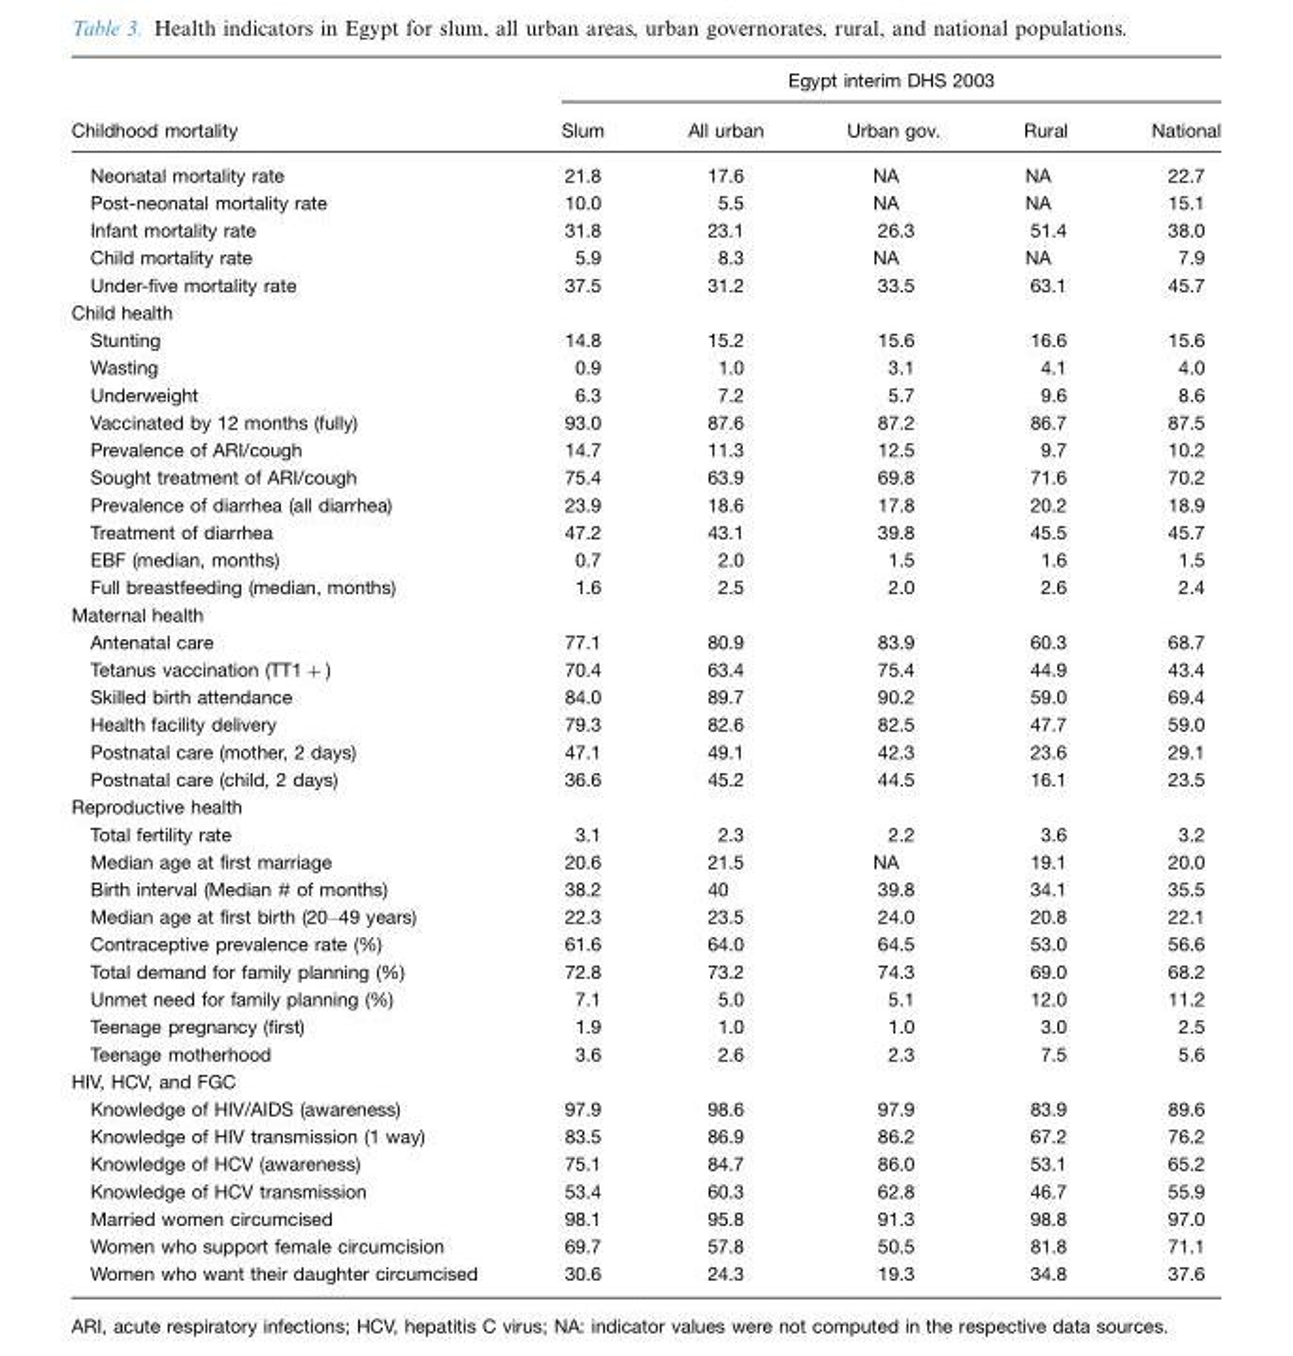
<table><thead><tr><td rowspan="2">Childhood mortality</td><td colspan="5">Egypt interim DHS 2003</td></tr><tr><td>Slum</td><td>All urban</td><td>Urban gov.</td><td>Rural</td><td>National</td></tr></thead><tbody><tr><td>Neonatal mortality rate</td><td>21.8</td><td>17.6</td><td>NA</td><td>NA</td><td>22.7</td></tr><tr><td>Post-neonatal mortality rate</td><td>10.0</td><td>5.5</td><td>NA</td><td>NA</td><td>15.1</td></tr><tr><td>Infant mortality rate</td><td>31.8</td><td>23.1</td><td>26.3</td><td>51.4</td><td>38.0</td></tr><tr><td>Child mortality rate</td><td>5.9</td><td>8.3</td><td>NA</td><td>NA</td><td>7.9</td></tr><tr><td>Under-five mortality rate</td><td>37.5</td><td>31.2</td><td>33.5</td><td>63.1</td><td>45.7</td></tr><tr><td colspan="6">Child health</td></tr><tr><td>Stunting</td><td>14.8</td><td>15.2</td><td>15.6</td><td>16.6</td><td>15.6</td></tr><tr><td>Wasting</td><td>0.9</td><td>1.0</td><td>3.1</td><td>4.1</td><td>4.0</td></tr><tr><td>Underweight</td><td>6.3</td><td>7.2</td><td>5.7</td><td>9.6</td><td>8.6</td></tr><tr><td>Vaccinated by 12 months (fully)</td><td>93.0</td><td>87.6</td><td>87.2</td><td>86.7</td><td>87.5</td></tr><tr><td>Prevalence of ARI/cough</td><td>14.7</td><td>11.3</td><td>12.5</td><td>9.7</td><td>10.2</td></tr><tr><td>Sought treatment of ARI/cough</td><td>75.4</td><td>63.9</td><td>69.8</td><td>71.6</td><td>70.2</td></tr><tr><td>Prevalence of diarrhea (all diarrhea)</td><td>23.9</td><td>18.6</td><td>17.8</td><td>20.2</td><td>18.9</td></tr><tr><td>Treatment of diarrhea</td><td>47.2</td><td>43.1</td><td>39.8</td><td>45.5</td><td>45.7</td></tr><tr><td>EBF (median, months)</td><td>0.7</td><td>2.0</td><td>1.5</td><td>1.6</td><td>1.5</td></tr><tr><td>Full breastfeeding (median, months)</td><td>1.6</td><td>2.5</td><td>2.0</td><td>2.6</td><td>2.4</td></tr><tr><td colspan="6">Maternal health</td></tr><tr><td>Antenatal care</td><td>77.1</td><td>80.9</td><td>83.9</td><td>60.3</td><td>68.7</td></tr><tr><td>Tetanus vaccination (TT1+)</td><td>70.4</td><td>63.4</td><td>75.4</td><td>44.9</td><td>43.4</td></tr><tr><td>Skilled birth attendance</td><td>84.0</td><td>89.7</td><td>90.2</td><td>59.0</td><td>69.4</td></tr><tr><td>Health facility delivery</td><td>79.3</td><td>82.6</td><td>82.5</td><td>47.7</td><td>59.0</td></tr><tr><td>Postnatal care (mother, 2 days)</td><td>47.1</td><td>49.1</td><td>42.3</td><td>23.6</td><td>29.1</td></tr><tr><td>Postnatal care (child, 2 days)</td><td>36.6</td><td>45.2</td><td>44.5</td><td>16.1</td><td>23.5</td></tr><tr><td colspan="6">Reproductive health</td></tr><tr><td>Total fertility rate</td><td>3.1</td><td>2.3</td><td>2.2</td><td>3.6</td><td>3.2</td></tr><tr><td>Median age at first marriage</td><td>20.6</td><td>21.5</td><td>NA</td><td>19.1</td><td>20.0</td></tr><tr><td>Birth interval (Median # of months)</td><td>38.2</td><td>40</td><td>39.8</td><td>34.1</td><td>35.5</td></tr><tr><td>Median age at first birth (20–49 years)</td><td>22.3</td><td>23.5</td><td>24.0</td><td>20.8</td><td>22.1</td></tr><tr><td>Contraceptive prevalence rate (%)</td><td>61.6</td><td>64.0</td><td>64.5</td><td>53.0</td><td>56.6</td></tr><tr><td>Total demand for family planning (%)</td><td>72.8</td><td>73.2</td><td>74.3</td><td>69.0</td><td>68.2</td></tr><tr><td>Unmet need for family planning (%)</td><td>7.1</td><td>5.0</td><td>5.1</td><td>12.0</td><td>11.2</td></tr><tr><td>Teenage pregnancy (first)</td><td>1.9</td><td>1.0</td><td>1.0</td><td>3.0</td><td>2.5</td></tr><tr><td>Teenage motherhood</td><td>3.6</td><td>2.6</td><td>2.3</td><td>7.5</td><td>5.6</td></tr><tr><td colspan="6">HIV, HCV, and FGC</td></tr><tr><td>Knowledge of HIV/AIDS (awareness)</td><td>97.9</td><td>98.6</td><td>97.9</td><td>83.9</td><td>89.6</td></tr><tr><td>Knowledge of HIV transmission (1 way)</td><td>83.5</td><td>86.9</td><td>86.2</td><td>67.2</td><td>76.2</td></tr><tr><td>Knowledge of HCV (awareness)</td><td>75.1</td><td>84.7</td><td>86.0</td><td>53.1</td><td>65.2</td></tr><tr><td>Knowledge of HCV transmission</td><td>53.4</td><td>60.3</td><td>62.8</td><td>46.7</td><td>55.9</td></tr><tr><td>Married women circumcised</td><td>98.1</td><td>95.8</td><td>91.3</td><td>98.8</td><td>97.0</td></tr><tr><td>Women who support female circumcision</td><td>69.7</td><td>57.8</td><td>50.5</td><td>81.8</td><td>71.1</td></tr><tr><td>Women who want their daughter circumcised</td><td>30.6</td><td>24.3</td><td>19.3</td><td>34.8</td><td>37.6</td></tr></tbody></table>